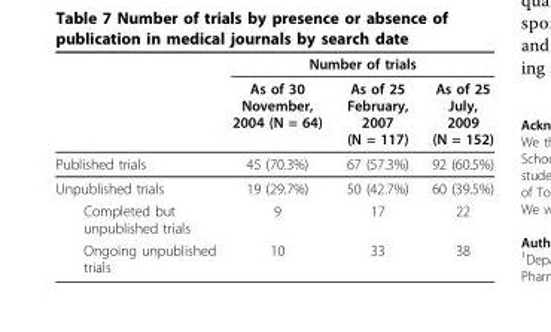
<table><thead><tr><td rowspan="2"></td><td colspan="3">Number of trials</td></tr><tr><td>As of 30 November, 2004 (N = 64)</td><td>As of 25 February, 2007 (N = 117)</td><td>As of 25 July, 2009 (N = 152)</td></tr></thead><tbody><tr><td>Published trials</td><td>45 (70.3%)</td><td>67 (57.3%)</td><td>92 (60.5%)</td></tr><tr><td>Unpublished trials</td><td>19 (29.7%)</td><td>50 (42.7%)</td><td>60 (39.5%)</td></tr><tr><td>Completed but unpublished trials</td><td>9</td><td>17</td><td>22</td></tr><tr><td>Ongoing unpublished trials</td><td>10</td><td>33</td><td>38</td></tr></tbody></table>